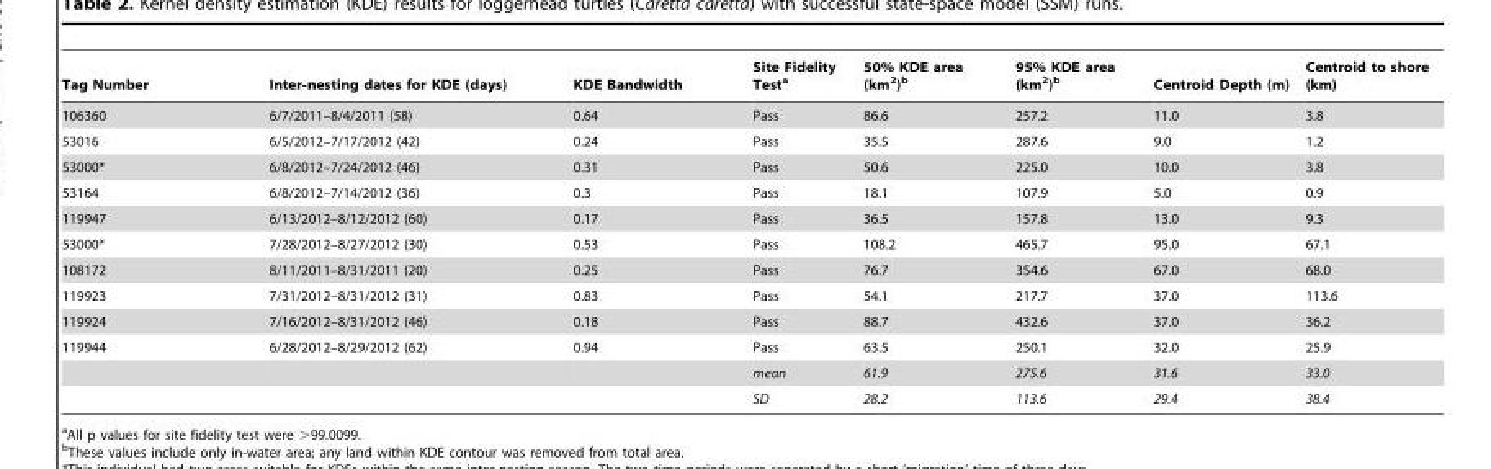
<table><thead><tr><td>Tag Number</td><td>Inter-nesting dates for KDE (days)</td><td>KDE Bandwidth</td><td>Site Fidelity Test<sup>a</sup></td><td>50% KDE area (km<sup>2</sup>)<sup>b</sup></td><td>95% KDE area (km<sup>2</sup>)<sup>b</sup></td><td>Centroid Depth (m)</td><td>Centroid to shore (km)</td></tr></thead><tbody><tr><td>106360</td><td>6/7/2011–8/4/2011 (58)</td><td>0.64</td><td>Pass</td><td>86.6</td><td>257.2</td><td>11.0</td><td>3.8</td></tr><tr><td>53016</td><td>6/5/2012–7/17/2012 (42)</td><td>0.24</td><td>Pass</td><td>35.5</td><td>287.6</td><td>9.0</td><td>1.2</td></tr><tr><td>53000*</td><td>6/8/2012–7/24/2012 (46)</td><td>0.31</td><td>Pass</td><td>50.6</td><td>225.0</td><td>10.0</td><td>3.8</td></tr><tr><td>53164</td><td>6/8/2012–7/14/2012 (36)</td><td>0.3</td><td>Pass</td><td>18.1</td><td>107.9</td><td>5.0</td><td>0.9</td></tr><tr><td>119947</td><td>6/13/2012–8/12/2012 (60)</td><td>0.17</td><td>Pass</td><td>36.5</td><td>157.8</td><td>13.0</td><td>9.3</td></tr><tr><td>53000*</td><td>7/28/2012–8/27/2012 (30)</td><td>0.53</td><td>Pass</td><td>108.2</td><td>465.7</td><td>95.0</td><td>67.1</td></tr><tr><td>108172</td><td>8/11/2011–8/31/2011 (20)</td><td>0.25</td><td>Pass</td><td>76.7</td><td>354.6</td><td>67.0</td><td>68.0</td></tr><tr><td>119923</td><td>7/31/2012–8/31/2012 (31)</td><td>0.83</td><td>Pass</td><td>54.1</td><td>217.7</td><td>37.0</td><td>113.6</td></tr><tr><td>119924</td><td>7/16/2012–8/31/2012 (46)</td><td>0.18</td><td>Pass</td><td>88.7</td><td>432.6</td><td>37.0</td><td>36.2</td></tr><tr><td rowspan="3">119944</td><td>6/28/2012–8/29/2012 (62)</td><td>0.94</td><td>Pass</td><td>63.5</td><td>250.1</td><td>32.0</td><td>25.9</td></tr><tr><td></td><td></td><td>mean</td><td>61.9</td><td>275.6</td><td>31.6</td><td>33.0</td></tr><tr><td></td><td></td><td>SD</td><td>28.2</td><td>113.6</td><td>29.4</td><td>38.4</td></tr></tbody></table>